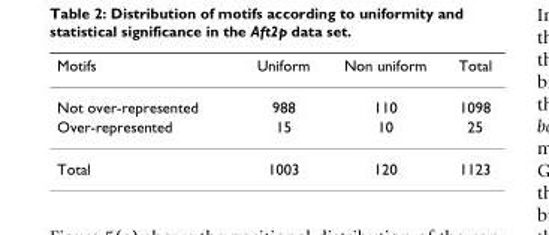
<table><thead><tr><td>Motifs</td><td>Uniform</td><td>Non uniform</td><td>Total</td></tr></thead><tbody><tr><td>Not over-represented</td><td>988</td><td>110</td><td>1098</td></tr><tr><td>Over-represented</td><td>15</td><td>10</td><td>25</td></tr><tr><td>Total</td><td>1003</td><td>120</td><td>1123</td></tr></tbody></table>